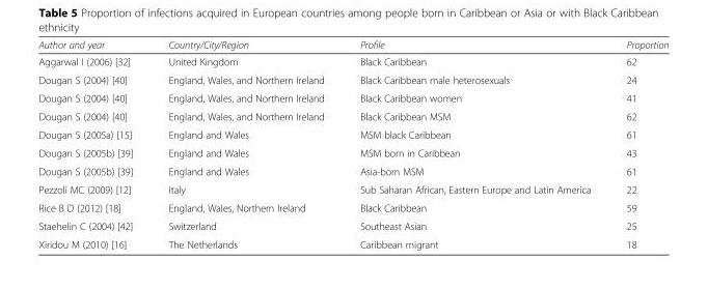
<table><thead><tr><td>Author and year</td><td>Country/City/Region</td><td>Profile</td><td>Proportion</td></tr></thead><tbody><tr><td>Aggarwal I (2006) [32]</td><td>United Kingdom</td><td>Black Caribbean</td><td>62</td></tr><tr><td>Dougan S (2004) [40]</td><td>England, Wales, and Northern Ireland</td><td>Black Caribbean male heterosexuals</td><td>24</td></tr><tr><td>Dougan S (2004) [40]</td><td>England, Wales, and Northern Ireland</td><td>Black Caribbean women</td><td>41</td></tr><tr><td>Dougan S (2004) [40]</td><td>England, Wales, and Northern Ireland</td><td>Black Caribbean MSM</td><td>62</td></tr><tr><td>Dougan S (2005a) [15]</td><td>England and Wales</td><td>MSM black Caribbean</td><td>61</td></tr><tr><td>Dougan S (2005b) [39]</td><td>England and Wales</td><td>MSM born in Caribbean</td><td>43</td></tr><tr><td>Dougan S (2005b) [39]</td><td>England and Wales</td><td>Asia-born MSM</td><td>61</td></tr><tr><td>Pezzoli MC (2009) [12]</td><td>Italy</td><td>Sub Saharan African, Eastern Europe and Latin America</td><td>22</td></tr><tr><td>Rice B D (2012) [18]</td><td>England, Wales, Northern Ireland</td><td>Black Caribbean</td><td>59</td></tr><tr><td>Staehelin C (2004) [42]</td><td>Switzerland</td><td>Southeast Asian</td><td>25</td></tr><tr><td>Xiridou M (2010) [16]</td><td>The Netherlands</td><td>Caribbean migrant</td><td>18</td></tr></tbody></table>